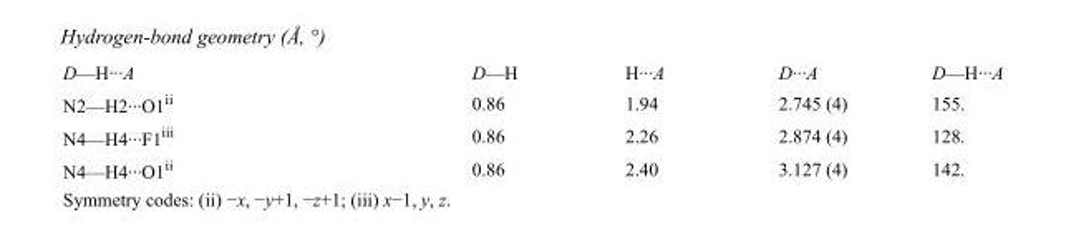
<table><tbody><tr><td>D—H···A</td><td>D—H</td><td>H···A</td><td>D···A</td><td>D—H···A</td></tr><tr><td>N2—H2···O1<sup>ii</sup></td><td>0.86</td><td>1.94</td><td>2.745 (4)</td><td>155.</td></tr><tr><td>N4—H4···F1<sup>iii</sup></td><td>0.86</td><td>2.26</td><td>2.874 (4)</td><td>128.</td></tr><tr><td>N4—H4···O1<sup>ii</sup></td><td>0.86</td><td>2.40</td><td>3.127 (4)</td><td>142.</td></tr></tbody></table>